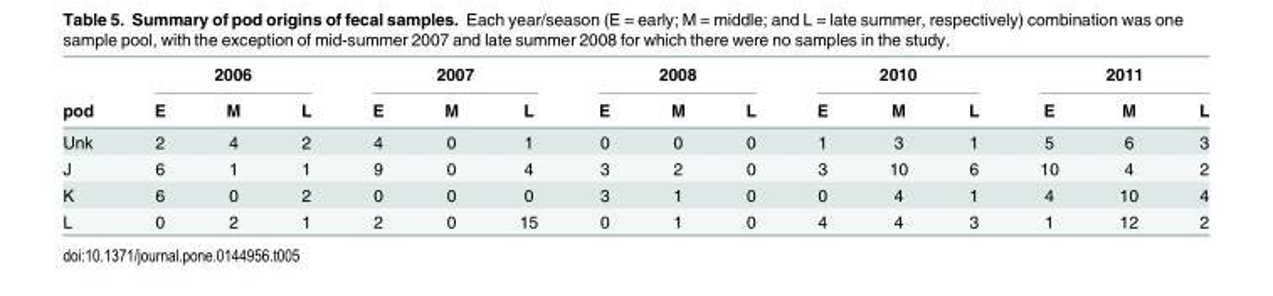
<table><thead><tr><td rowspan="2">pod</td><td colspan="3">2006</td><td colspan="3">2007</td><td colspan="3">2008</td><td colspan="3">2010</td><td colspan="3">2011</td></tr><tr><td>E</td><td>M</td><td>L</td><td>E</td><td>M</td><td>L</td><td>E</td><td>M</td><td>L</td><td>E</td><td>M</td><td>L</td><td>E</td><td>M</td><td>L</td></tr></thead><tbody><tr><td>Unk</td><td>2</td><td>4</td><td>2</td><td>4</td><td>0</td><td>1</td><td>0</td><td>0</td><td>0</td><td>1</td><td>3</td><td>1</td><td>5</td><td>6</td><td>3</td></tr><tr><td>J</td><td>6</td><td>1</td><td>1</td><td>9</td><td>0</td><td>4</td><td>3</td><td>2</td><td>0</td><td>3</td><td>10</td><td>6</td><td>10</td><td>4</td><td>2</td></tr><tr><td>K</td><td>6</td><td>0</td><td>2</td><td>0</td><td>0</td><td>0</td><td>3</td><td>1</td><td>0</td><td>0</td><td>4</td><td>1</td><td>4</td><td>10</td><td>4</td></tr><tr><td>L</td><td>0</td><td>2</td><td>1</td><td>2</td><td>0</td><td>15</td><td>0</td><td>1</td><td>0</td><td>4</td><td>4</td><td>3</td><td>1</td><td>12</td><td>2</td></tr></tbody></table>